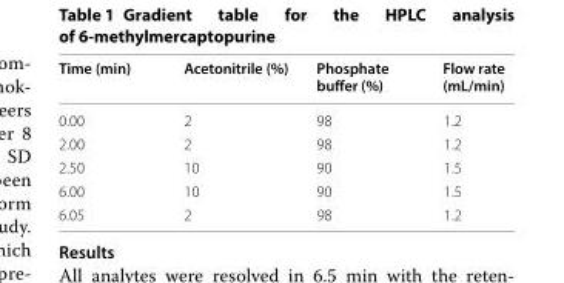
<table><thead><tr><td>Time (min)</td><td>Acetonitrile (%)</td><td>Phosphate buffer (%)</td><td>Flow rate (mL/min)</td></tr></thead><tbody><tr><td>0.00</td><td>2</td><td>98</td><td>1.2</td></tr><tr><td>2.00</td><td>2</td><td>98</td><td>1.2</td></tr><tr><td>2.50</td><td>10</td><td>90</td><td>1.5</td></tr><tr><td>6.00</td><td>10</td><td>90</td><td>1.5</td></tr><tr><td>6.05</td><td>2</td><td>98</td><td>1.2</td></tr></tbody></table>